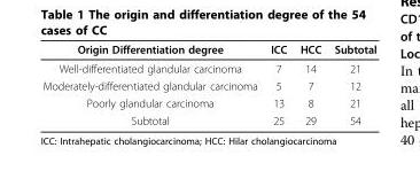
<table><thead><tr><td>Origin Differentiation degree</td><td>ICC</td><td>HCC</td><td>Subtotal</td></tr></thead><tbody><tr><td>Well-differentiated glandular carcinoma</td><td>7</td><td>14</td><td>21</td></tr><tr><td>Moderately-differentiated glandular carcinoma</td><td>5</td><td>7</td><td>12</td></tr><tr><td>Poorly glandular carcinoma</td><td>13</td><td>8</td><td>21</td></tr><tr><td>Subtotal</td><td>25</td><td>29</td><td>54</td></tr></tbody></table>